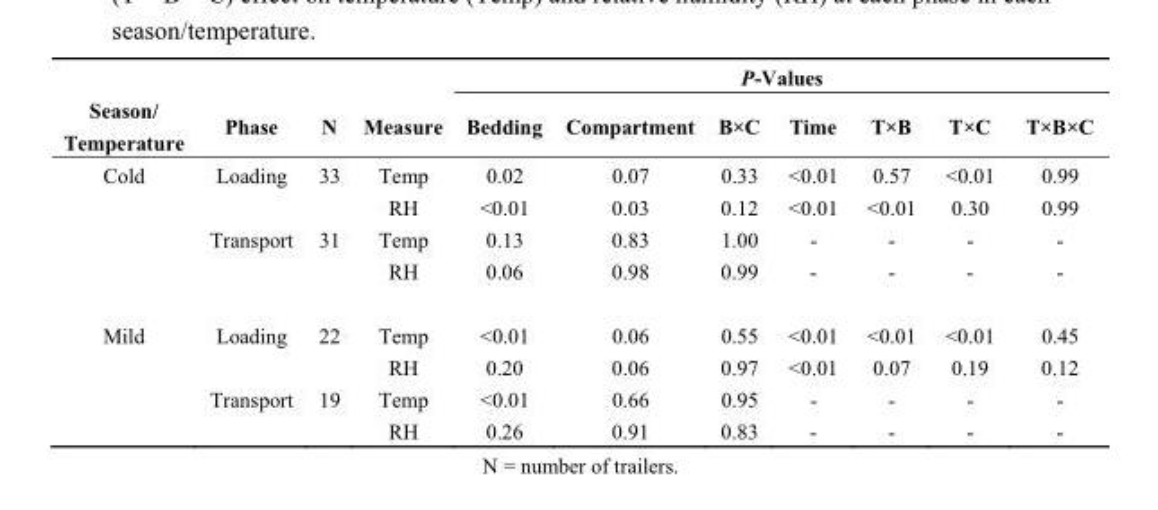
<table><thead><tr><td rowspan="2">Season/ Temperature</td><td rowspan="2">Phase</td><td rowspan="2">N</td><td rowspan="2">Measure</td><td colspan="7">P-Values</td></tr><tr><td>Bedding</td><td>Compartment</td><td>B×C</td><td>Time</td><td>T×B</td><td>T×C</td><td>T×B×C</td></tr></thead><tbody><tr><td rowspan="4">Cold</td><td>Loading</td><td>33</td><td>Temp</td><td>0.02</td><td>0.07</td><td>0.33</td><td>&lt;0.01</td><td>0.57</td><td>&lt;0.01</td><td>0.99</td></tr><tr><td></td><td></td><td>RH</td><td>&lt;0.01</td><td>0.03</td><td>0.12</td><td>&lt;0.01</td><td>&lt;0.01</td><td>0.30</td><td>0.99</td></tr><tr><td>Transport</td><td>31</td><td>Temp</td><td>0.13</td><td>0.83</td><td>1.00</td><td>-</td><td>-</td><td>-</td><td>-</td></tr><tr><td></td><td></td><td>RH</td><td>0.06</td><td>0.98</td><td>0.99</td><td>-</td><td>-</td><td>-</td><td>-</td></tr><tr><td rowspan="4">Mild</td><td>Loading</td><td>22</td><td>Temp</td><td>&lt;0.01</td><td>0.06</td><td>0.55</td><td>&lt;0.01</td><td>&lt;0.01</td><td>&lt;0.01</td><td>0.45</td></tr><tr><td></td><td></td><td>RH</td><td>0.20</td><td>0.06</td><td>0.97</td><td>&lt;0.01</td><td>0.07</td><td>0.19</td><td>0.12</td></tr><tr><td>Transport</td><td>19</td><td>Temp</td><td>&lt;0.01</td><td>0.66</td><td>0.95</td><td>-</td><td>-</td><td>-</td><td>-</td></tr><tr><td></td><td></td><td>RH</td><td>0.26</td><td>0.91</td><td>0.83</td><td>-</td><td>-</td><td>-</td><td>-</td></tr></tbody></table>